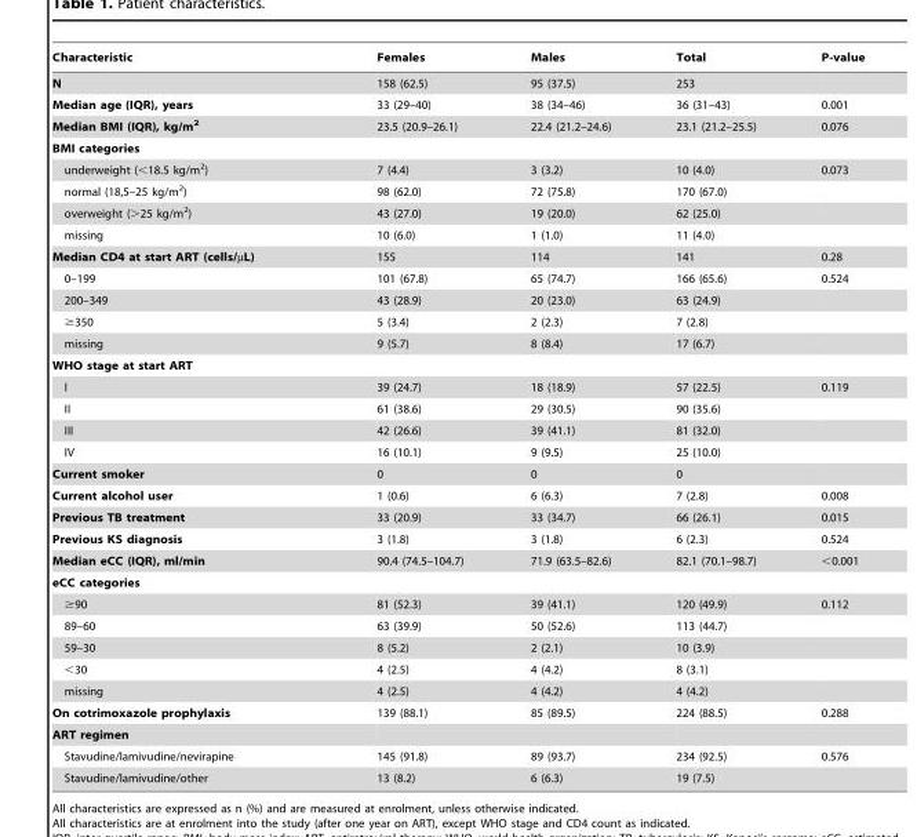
<table><thead><tr><td>Characteristic</td><td>Females</td><td>Males</td><td>Total</td><td>P-value</td></tr></thead><tbody><tr><td>N</td><td>158 (62.5)</td><td>95 (37.5)</td><td>253</td><td></td></tr><tr><td>Median age (IQR), years</td><td>33 (29–40)</td><td>38 (34–46)</td><td>36 (31–43)</td><td>0.001</td></tr><tr><td>Median BMI (IQR), kg/m<sup>2</sup></td><td>23.5 (20.9–26.1)</td><td>22.4 (21.2–24.6)</td><td>23.1 (21.2–25.5)</td><td>0.076</td></tr><tr><td colspan="5">BMI categories</td></tr><tr><td>underweight (&lt;18.5 kg/m<sup>2</sup>)</td><td>7 (4.4)</td><td>3 (3.2)</td><td>10 (4.0)</td><td>0.073</td></tr><tr><td>normal (18,5–25 kg/m<sup>2</sup>)</td><td>98 (62.0)</td><td>72 (75.8)</td><td>170 (67.0)</td><td></td></tr><tr><td>overweight (&gt;25 kg/m<sup>2</sup>)</td><td>43 (27.0)</td><td>19 (20.0)</td><td>62 (25.0)</td><td></td></tr><tr><td>missing</td><td>10 (6.0)</td><td>1 (1.0)</td><td>11 (4.0)</td><td></td></tr><tr><td>Median CD4 at start ART (cells/µL)</td><td>155</td><td>114</td><td>141</td><td>0.28</td></tr><tr><td>0–199</td><td>101 (67.8)</td><td>65 (74.7)</td><td>166 (65.6)</td><td>0.524</td></tr><tr><td>200–349</td><td>43 (28.9)</td><td>20 (23.0)</td><td>63 (24.9)</td><td></td></tr><tr><td>≥350</td><td>5 (3.4)</td><td>2 (2.3)</td><td>7 (2.8)</td><td></td></tr><tr><td>missing</td><td>9 (5.7)</td><td>8 (8.4)</td><td>17 (6.7)</td><td></td></tr><tr><td colspan="5">WHO stage at start ART</td></tr><tr><td>I</td><td>39 (24.7)</td><td>18 (18.9)</td><td>57 (22.5)</td><td>0.119</td></tr><tr><td>II</td><td>61 (38.6)</td><td>29 (30.5)</td><td>90 (35.6)</td><td></td></tr><tr><td>III</td><td>42 (26.6)</td><td>39 (41.1)</td><td>81 (32.0)</td><td></td></tr><tr><td>IV</td><td>16 (10.1)</td><td>9 (9.5)</td><td>25 (10.0)</td><td></td></tr><tr><td>Current smoker</td><td>0</td><td>0</td><td>0</td><td></td></tr><tr><td>Current alcohol user</td><td>1 (0.6)</td><td>6 (6.3)</td><td>7 (2.8)</td><td>0.008</td></tr><tr><td>Previous TB treatment</td><td>33 (20.9)</td><td>33 (34.7)</td><td>66 (26.1)</td><td>0.015</td></tr><tr><td>Previous KS diagnosis</td><td>3 (1.8)</td><td>3 (1.8)</td><td>6 (2.3)</td><td>0.524</td></tr><tr><td>Median eCC (IQR), ml/min</td><td>90.4 (74.5–104.7)</td><td>71.9 (63.5–82.6)</td><td>82.1 (70.1–98.7)</td><td>&lt;0.001</td></tr><tr><td colspan="5">eCC categories</td></tr><tr><td>≥90</td><td>81 (52.3)</td><td>39 (41.1)</td><td>120 (49.9)</td><td>0.112</td></tr><tr><td>89–60</td><td>63 (39.9)</td><td>50 (52.6)</td><td>113 (44.7)</td><td></td></tr><tr><td>59–30</td><td>8 (5.2)</td><td>2 (2.1)</td><td>10 (3.9)</td><td></td></tr><tr><td>&lt;30</td><td>4 (2.5)</td><td>4 (4.2)</td><td>8 (3.1)</td><td></td></tr><tr><td>missing</td><td>4 (2.5)</td><td>4 (4.2)</td><td>4 (4.2)</td><td></td></tr><tr><td>On cotrimoxazole prophylaxis</td><td>139 (88.1)</td><td>85 (89.5)</td><td>224 (88.5)</td><td>0.288</td></tr><tr><td colspan="5">ART regimen</td></tr><tr><td>Stavudine/lamivudine/nevirapine</td><td>145 (91.8)</td><td>89 (93.7)</td><td>234 (92.5)</td><td>0.576</td></tr><tr><td>Stavudine/lamivudine/other</td><td>13 (8.2)</td><td>6 (6.3)</td><td>19 (7.5)</td><td></td></tr></tbody></table>